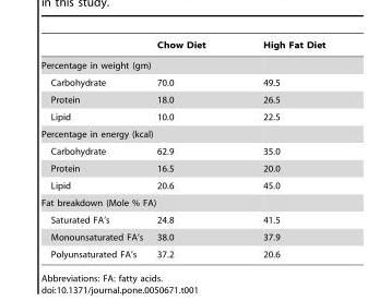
<table><thead><tr><td></td><td>Chow Diet</td><td>High Fat Diet</td></tr></thead><tbody><tr><td colspan="3">Percentage in weight (gm)</td></tr><tr><td>Carbohydrate</td><td>70.0</td><td>49.5</td></tr><tr><td>Protein</td><td>18.0</td><td>26.5</td></tr><tr><td>Lipid</td><td>10.0</td><td>22.5</td></tr><tr><td colspan="3">Percentage in energy (kcal)</td></tr><tr><td>Carbohydrate</td><td>62.9</td><td>35.0</td></tr><tr><td>Protein</td><td>16.5</td><td>20.0</td></tr><tr><td>Lipid</td><td>20.6</td><td>45.0</td></tr><tr><td colspan="3">Fat breakdown (Mole % FA)</td></tr><tr><td>Saturated FA’s</td><td>24.8</td><td>41.5</td></tr><tr><td>Monounsaturated FA’s</td><td>38.0</td><td>37.9</td></tr><tr><td>Polyunsaturated FA’s</td><td>37.2</td><td>20.6</td></tr></tbody></table>